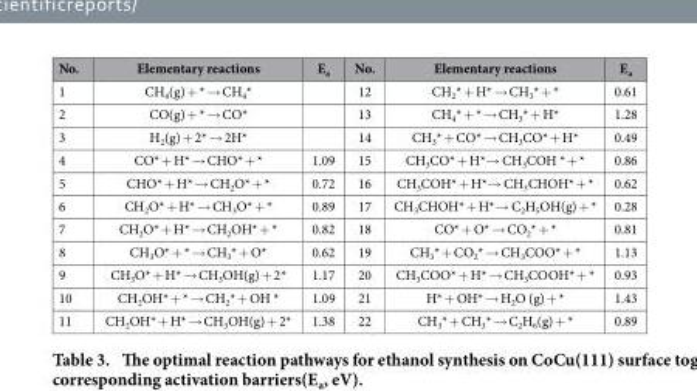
<table><thead><tr><td>No.</td><td>Elementary reactions</td><td>E<sub>a</sub></td><td>No.</td><td>Elementary reactions</td><td>E<sub>a</sub></td></tr></thead><tbody><tr><td>1</td><td>CH<sub>4</sub>(g) + * → CH<sub>4</sub>*</td><td></td><td>12</td><td>CH<sub>2</sub>* + H* → CH<sub>3</sub>* + *</td><td>0.61</td></tr><tr><td>2</td><td>CO(g) + * → CO*</td><td></td><td>13</td><td>CH<sub>4</sub>* + * → CH<sub>3</sub>* + H*</td><td>1.28</td></tr><tr><td>3</td><td>H<sub>2</sub>(g) + 2* → 2H*</td><td></td><td>14</td><td>CH<sub>3</sub>* + CO* → CH<sub>3</sub>CO* + H*</td><td>0.49</td></tr><tr><td>4</td><td>CO* + H* → CHO* + *</td><td>1.09</td><td>15</td><td>CH<sub>3</sub>CO* + H*→ CH<sub>3</sub>COH * + *</td><td>0.86</td></tr><tr><td>5</td><td>CHO* + H* → CH<sub>2</sub>O* + *</td><td>0.72</td><td>16</td><td>CH<sub>3</sub>COH* + H*→ CH<sub>3</sub>CHOH* + *</td><td>0.62</td></tr><tr><td>6</td><td>CH<sub>2</sub>O* + H* → CH<sub>3</sub>O* + *</td><td>0.89</td><td>17</td><td>CH<sub>3</sub>CHOH* + H*→ C<sub>2</sub>H<sub>5</sub>OH(g) + *</td><td>0.28</td></tr><tr><td>7</td><td>CH<sub>2</sub>O* + H* → CH<sub>2</sub>OH* + *</td><td>0.82</td><td>18</td><td>CO* + O* → CO<sub>2</sub>* + *</td><td>0.81</td></tr><tr><td>8</td><td>CH<sub>3</sub>O* + * → CH<sub>3</sub>* + O*</td><td>0.62</td><td>19</td><td>CH<sub>3</sub>* + CO<sub>2</sub>* → CH<sub>3</sub>COO* + *</td><td>1.13</td></tr><tr><td>9</td><td>CH<sub>3</sub>O* + H* → CH<sub>3</sub>OH(g) + 2*</td><td>1.17</td><td>20</td><td>CH<sub>3</sub>COO* + H* → CH<sub>3</sub>COOH* + *</td><td>0.93</td></tr><tr><td>10</td><td>CH<sub>2</sub>OH* + * → CH<sub>2</sub>* + OH *</td><td>1.09</td><td>21</td><td>H* + OH* → H<sub>2</sub>O (g) + *</td><td>1.43</td></tr><tr><td>11</td><td>CH<sub>2</sub>OH* + H* → CH<sub>3</sub>OH(g) + 2*</td><td>1.38</td><td>22</td><td>CH<sub>3</sub>* + CH<sub>3</sub>* → C<sub>2</sub>H<sub>6</sub>(g) + *</td><td>0.89</td></tr></tbody></table>